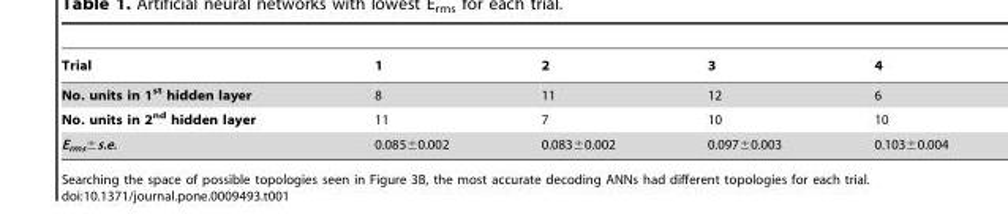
<table><thead><tr><td>Trial</td><td>1</td><td>2</td><td>3</td><td>4</td></tr></thead><tbody><tr><td>No. units in 1<sup>st</sup> hidden layer</td><td>8</td><td>11</td><td>12</td><td>6</td></tr><tr><td>No. units in 2<sup>nd</sup> hidden layer</td><td>11</td><td>7</td><td>10</td><td>10</td></tr><tr><td>E<sub>rms</sub>±s.e.</td><td>0.085±0.002</td><td>0.083±0.002</td><td>0.097±0.003</td><td>0.103±0.004</td></tr></tbody></table>